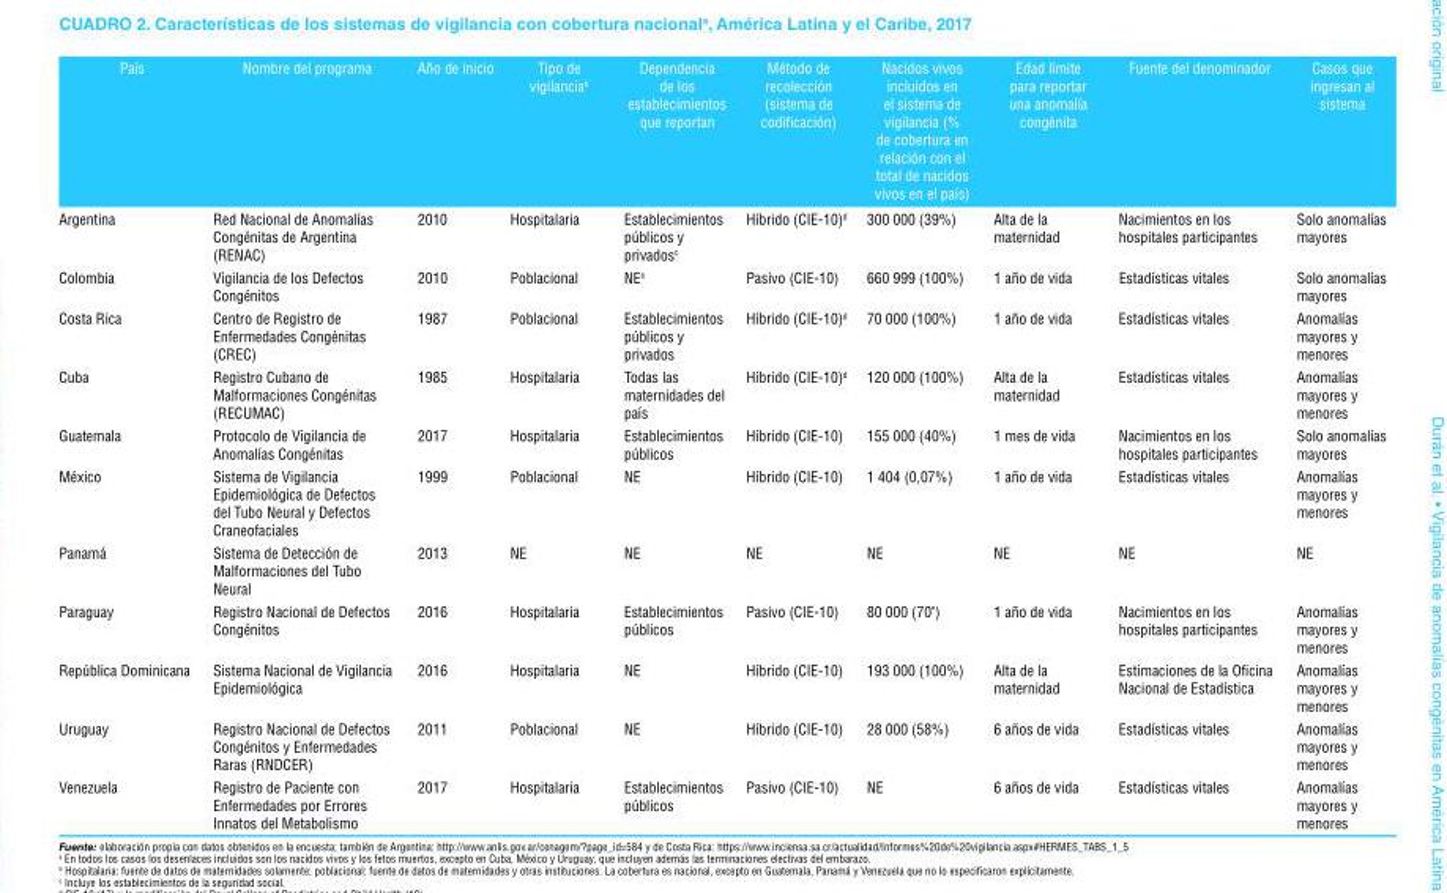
<table><thead><tr><td>País</td><td>Nombre del programa</td><td>Año de inicio</td><td>Tipo de vigilancia<sup>b</sup></td><td>Dependencia de los establecimientos que reportan</td><td>Método de recolección (sistema de codificación)</td><td>Nacidos vivos incluidos en el sistema de vigilancia (% de cobertura en relación con el total de nacidos vivos en el país)</td><td>Edad límite para reportar una anomalía congénita</td><td>Fuente del denominador</td><td>Casos que ingresan al sistema</td></tr></thead><tbody><tr><td>Argentina</td><td>Red Nacional de Anomalías Congénitas de Argentina (RENAC)</td><td>2010</td><td>Hospitalaria</td><td>Establecimientos públicos y privados<sup>c</sup></td><td>Híbrido (CIE-10)<sup>d</sup></td><td>300 000 (39%)</td><td>Alta de la maternidad</td><td>Nacimientos en los hospitales participantes</td><td>Solo anomalías mayores</td></tr><tr><td>Colombia</td><td>Vigilancia de los Defectos Congénitos</td><td>2010</td><td>Poblacional</td><td>NE<sup>e</sup></td><td>Pasivo (CIE-10)</td><td>660 999 (100%)</td><td>1 año de vida</td><td>Estadísticas vitales</td><td>Solo anomalías mayores</td></tr><tr><td>Costa Rica</td><td>Centro de Registro de Enfermedades Congénitas (CREC)</td><td>1987</td><td>Poblacional</td><td>Establecimientos públicos y privados</td><td>Híbrido (CIE-10)<sup>d</sup></td><td>70 000 (100%)</td><td>1 año de vida</td><td>Estadísticas vitales</td><td>Anomalías mayores y menores</td></tr><tr><td>Cuba</td><td>Registro Cubano de Malformaciones Congénitas (RECUMAC)</td><td>1985</td><td>Hospitalaria</td><td>Todas las maternidades del país</td><td>Híbrido (CIE-10)<sup>d</sup></td><td>120 000 (100%)</td><td>Alta de la maternidad</td><td>Estadísticas vitales</td><td>Anomalías mayores y menores</td></tr><tr><td>Guatemala</td><td>Protocolo de Vigilancia de Anomalías Congénitas</td><td>2017</td><td>Hospitalaria</td><td>Establecimientos públicos</td><td>Híbrido (CIE-10)</td><td>155 000 (40%)</td><td>1 mes de vida</td><td>Nacimientos en los hospitales participantes</td><td>Solo anomalías mayores</td></tr><tr><td>México</td><td>Sistema de Vigilancia Epidemiológica de Defectos del Tubo Neural y Defectos Craneofaciales</td><td>1999</td><td>Poblacional</td><td>NE</td><td>Híbrido (CIE-10)</td><td>1 404 (0,07%)</td><td>1 año de vida</td><td>Estadísticas vitales</td><td>Anomalías mayores y menores</td></tr><tr><td>Panamá</td><td>Sistema de Detección de Malformaciones del Tubo Neural</td><td>2013</td><td>NE</td><td>NE</td><td>NE</td><td>NE</td><td>NE</td><td>NE</td><td>NE</td></tr><tr><td>Paraguay</td><td>Registro Nacional de Defectos Congénitos</td><td>2016</td><td>Hospitalaria</td><td>Establecimientos públicos</td><td>Pasivo (CIE-10)</td><td>80 000 (70&quot;)</td><td>1 año de vida</td><td>Nacimientos en los hospitales participantes</td><td>Anomalías mayores y menores</td></tr><tr><td>República Dominicana</td><td>Sistema Nacional de Vigilancia Epidemiológica</td><td>2016</td><td>Hospitalaria</td><td>NE</td><td>Híbrido (CIE-10)</td><td>193 000 (100%)</td><td>Alta de la maternidad</td><td>Estimaciones de la Oficina Nacional de Estadística</td><td>Anomalías mayores y menores</td></tr><tr><td>Uruguay</td><td>Registro Nacional de Defectos Congénitos y Enfermedades Raras (RNDCER)</td><td>2011</td><td>Poblacional</td><td>NE</td><td>Híbrido (CIE-10)</td><td>28 000 (58%)</td><td>6 años de vida</td><td>Estadísticas vitales</td><td>Anomalías mayores y menores</td></tr><tr><td>Venezuela</td><td>Registro de Paciente con Enfermedades por Errores Innatos del Metabolismo</td><td>2017</td><td>Hospitalaria</td><td>Establecimientos públicos</td><td>Pasivo (CIE-10)</td><td>NE</td><td>6 años de vida</td><td>Estadísticas vitales</td><td>Anomalías mayores y menores</td></tr></tbody></table>